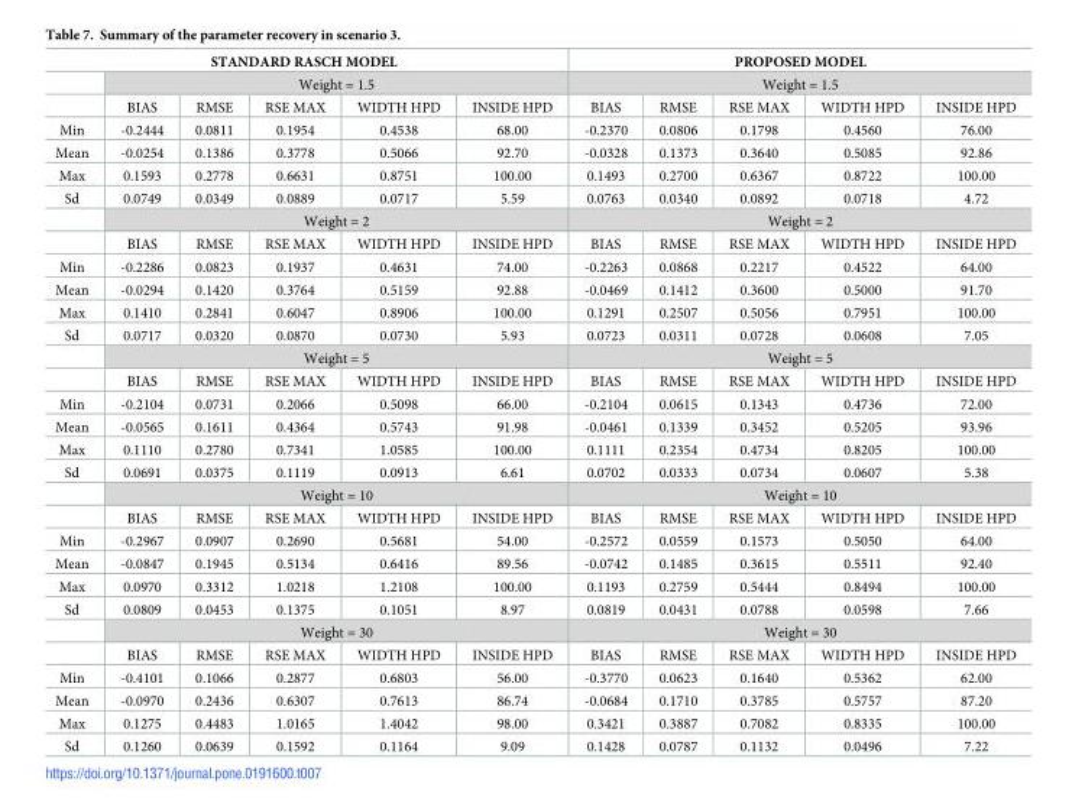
<table><thead><tr><td colspan="6">STANDARD RASCH MODEL</td><td rowspan="2" colspan="5">PROPOSED MODEL Weight = 1.5</td></tr><tr><td rowspan="2"></td><td colspan="5">Weight = 1.5</td></tr><tr><td>BIAS</td><td>RMSE</td><td>RSE MAX</td><td>WIDTH HPD</td><td>INSIDE HPD</td><td>BIAS</td><td>RMSE</td><td>RSE MAX</td><td>WIDTH HPD</td><td>INSIDE HPD</td></tr></thead><tbody><tr><td>Min</td><td>-0.2444</td><td>0.0811</td><td>0.1954</td><td>0.4538</td><td>68.00</td><td>-0.2370</td><td>0.0806</td><td>0.1798</td><td>0.4560</td><td>76.00</td></tr><tr><td>Mean</td><td>-0.0254</td><td>0.1386</td><td>0.3778</td><td>0.5066</td><td>92.70</td><td>-0.0328</td><td>0.1373</td><td>0.3640</td><td>0.5085</td><td>92.86</td></tr><tr><td>Max</td><td>0.1593</td><td>0.2778</td><td>0.6631</td><td>0.8751</td><td>100.00</td><td>0.1493</td><td>0.2700</td><td>0.6367</td><td>0.8722</td><td>100.00</td></tr><tr><td rowspan="3">Sd</td><td>0.0749</td><td>0.0349</td><td>0.0889</td><td>0.0717</td><td>5.59</td><td>0.0763</td><td>0.0340</td><td>0.0892</td><td>0.0718</td><td>4.72</td></tr><tr><td colspan="5">Weight = 2</td><td colspan="5">Weight = 2</td></tr><tr><td>BIAS</td><td>RMSE</td><td>RSE MAX</td><td>WIDTH HPD</td><td>INSIDE HPD</td><td>BIAS</td><td>RMSE</td><td>RSE MAX</td><td>WIDTH HPD</td><td>INSIDE HPD</td></tr><tr><td>Min</td><td>-0.2286</td><td>0.0823</td><td>0.1937</td><td>0.4631</td><td>74.00</td><td>-0.2263</td><td>0.0868</td><td>0.2217</td><td>0.4522</td><td>64.00</td></tr><tr><td>Mean</td><td>-0.0294</td><td>0.1420</td><td>0.3764</td><td>0.5159</td><td>92.88</td><td>-0.0469</td><td>0.1412</td><td>0.3600</td><td>0.5000</td><td>91.70</td></tr><tr><td>Max</td><td>0.1410</td><td>0.2841</td><td>0.6047</td><td>0.8906</td><td>100.00</td><td>0.1291</td><td>0.2507</td><td>0.5056</td><td>0.7951</td><td>100.00</td></tr><tr><td rowspan="3">Sd</td><td>0.0717</td><td>0.0320</td><td>0.0870</td><td>0.0730</td><td>5.93</td><td>0.0723</td><td>0.0311</td><td>0.0728</td><td>0.0608</td><td>7.05</td></tr><tr><td colspan="5">Weight = 5</td><td colspan="5">Weight = 5</td></tr><tr><td>BIAS</td><td>RMSE</td><td>RSE MAX</td><td>WIDTH HPD</td><td>INSIDE HPD</td><td>BIAS</td><td>RMSE</td><td>RSE MAX</td><td>WIDTH HPD</td><td>INSIDE HPD</td></tr><tr><td>Min</td><td>-0.2104</td><td>0.0731</td><td>0.2066</td><td>0.5098</td><td>66.00</td><td>-0.2104</td><td>0.0615</td><td>0.1343</td><td>0.4736</td><td>72.00</td></tr><tr><td>Mean</td><td>-0.0565</td><td>0.1611</td><td>0.4364</td><td>0.5743</td><td>91.98</td><td>-0.0461</td><td>0.1339</td><td>0.3452</td><td>0.5205</td><td>93.96</td></tr><tr><td>Max</td><td>0.1110</td><td>0.2780</td><td>0.7341</td><td>1.0585</td><td>100.00</td><td>0.1111</td><td>0.2354</td><td>0.4734</td><td>0.8205</td><td>100.00</td></tr><tr><td rowspan="3">Sd</td><td>0.0691</td><td>0.0375</td><td>0.1119</td><td>0.0913</td><td>6.61</td><td>0.0702</td><td>0.0333</td><td>0.0734</td><td>0.0607</td><td>5.38</td></tr><tr><td colspan="5">Weight = 10</td><td colspan="5">Weight = 10</td></tr><tr><td>BIAS</td><td>RMSE</td><td>RSE MAX</td><td>WIDTH HPD</td><td>INSIDE HPD</td><td>BIAS</td><td>RMSE</td><td>RSE MAX</td><td>WIDTH HPD</td><td>INSIDE HPD</td></tr><tr><td>Min</td><td>-0.2967</td><td>0.0907</td><td>0.2690</td><td>0.5681</td><td>54.00</td><td>-0.2572</td><td>0.0559</td><td>0.1573</td><td>0.5050</td><td>64.00</td></tr><tr><td>Mean</td><td>-0.0847</td><td>0.1945</td><td>0.5134</td><td>0.6416</td><td>89.56</td><td>-0.0742</td><td>0.1485</td><td>0.3615</td><td>0.5511</td><td>92.40</td></tr><tr><td>Max</td><td>0.0970</td><td>0.3312</td><td>1.0218</td><td>1.2108</td><td>100.00</td><td>0.1193</td><td>0.2759</td><td>0.5444</td><td>0.8494</td><td>100.00</td></tr><tr><td rowspan="3">Sd</td><td>0.0809</td><td>0.0453</td><td>0.1375</td><td>0.1051</td><td>8.97</td><td>0.0819</td><td>0.0431</td><td>0.0788</td><td>0.0598</td><td>7.66</td></tr><tr><td colspan="5">Weight = 30</td><td colspan="5">Weight = 30</td></tr><tr><td>BIAS</td><td>RMSE</td><td>RSE MAX</td><td>WIDTH HPD</td><td>INSIDE HPD</td><td>BIAS</td><td>RMSE</td><td>RSE MAX</td><td>WIDTH HPD</td><td>INSIDE HPD</td></tr><tr><td>Min</td><td>-0.4101</td><td>0.1066</td><td>0.2877</td><td>0.6803</td><td>56.00</td><td>-0.3770</td><td>0.0623</td><td>0.1640</td><td>0.5362</td><td>62.00</td></tr><tr><td>Mean</td><td>-0.0970</td><td>0.2436</td><td>0.6307</td><td>0.7613</td><td>86.74</td><td>-0.0684</td><td>0.1710</td><td>0.3785</td><td>0.5757</td><td>87.20</td></tr><tr><td>Max</td><td>0.1275</td><td>0.4483</td><td>1.0165</td><td>1.4042</td><td>98.00</td><td>0.3421</td><td>0.3887</td><td>0.7082</td><td>0.8335</td><td>100.00</td></tr><tr><td>Sd</td><td>0.1260</td><td>0.0639</td><td>0.1592</td><td>0.1164</td><td>9.09</td><td>0.1428</td><td>0.0787</td><td>0.1132</td><td>0.0496</td><td>7.22</td></tr></tbody></table>